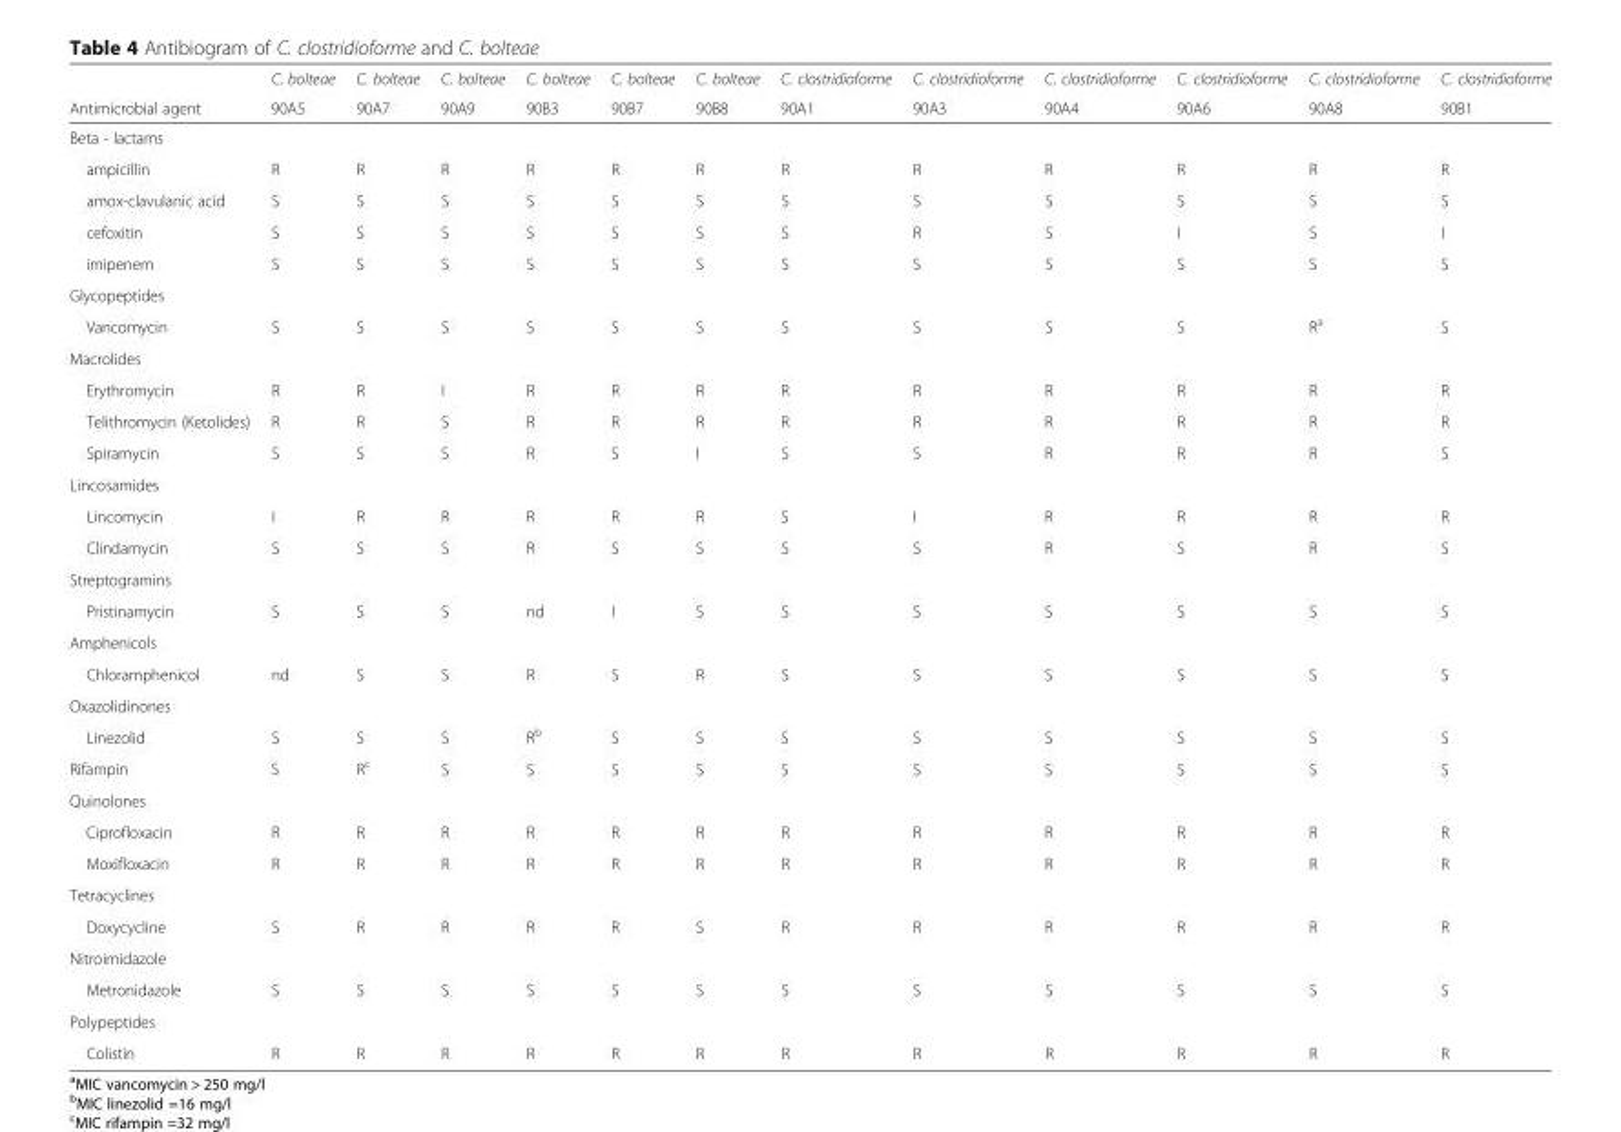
<table><thead><tr><td rowspan="2">Antimicrobial agent</td><td rowspan="2">C. bolteae 90A5</td><td rowspan="2">C. bolteae 90A7</td><td rowspan="2">C. bolteae 90A9</td><td rowspan="2">C. bolteae 90B3</td><td rowspan="2">C. bolteae 90B7</td><td rowspan="2">C. bolteae 90B8</td><td rowspan="2">C. clostridioforme 90A1</td><td rowspan="2">C. clostridioforme 90A3</td><td rowspan="2">C. clostridioforme 90A4</td><td rowspan="2">C. clostridioforme 90A6</td><td rowspan="2">C. clostridioforme 90A8</td><td rowspan="2">C. clostridioforme 90B1</td></tr><tr></tr></thead><tbody><tr><td colspan="13">Beta - lactams</td></tr><tr><td>ampicillin</td><td>R</td><td>R</td><td>R</td><td>R</td><td>R</td><td>R</td><td>R</td><td>R</td><td>R</td><td>R</td><td>R</td><td>R</td></tr><tr><td>amox-clavulanic acid</td><td>S</td><td>S</td><td>S</td><td>S</td><td>S</td><td>S</td><td>S</td><td>S</td><td>S</td><td>S</td><td>S</td><td>S</td></tr><tr><td>cefoxitin</td><td>S</td><td>S</td><td>S</td><td>S</td><td>S</td><td>S</td><td>S</td><td>R</td><td>S</td><td>I</td><td>S</td><td>I</td></tr><tr><td>imipenem</td><td>S</td><td>S</td><td>S</td><td>S</td><td>S</td><td>S</td><td>S</td><td>S</td><td>S</td><td>S</td><td>S</td><td>S</td></tr><tr><td colspan="13">Glycopeptides</td></tr><tr><td>Vancomycin</td><td>S</td><td>S</td><td>S</td><td>S</td><td>S</td><td>S</td><td>S</td><td>S</td><td>S</td><td>S</td><td>R<sup>a</sup></td><td>S</td></tr><tr><td colspan="13">Macrolides</td></tr><tr><td>Erythromycin</td><td>R</td><td>R</td><td>I</td><td>R</td><td>R</td><td>R</td><td>R</td><td>R</td><td>R</td><td>R</td><td>R</td><td>R</td></tr><tr><td>Telithromycin (Ketolides)</td><td>R</td><td>R</td><td>S</td><td>R</td><td>R</td><td>R</td><td>R</td><td>R</td><td>R</td><td>R</td><td>R</td><td>R</td></tr><tr><td>Spiramycin</td><td>S</td><td>S</td><td>S</td><td>R</td><td>S</td><td>I</td><td>S</td><td>S</td><td>R</td><td>R</td><td>R</td><td>S</td></tr><tr><td colspan="13">Lincosamides</td></tr><tr><td>Lincomycin</td><td>I</td><td>R</td><td>R</td><td>R</td><td>R</td><td>R</td><td>S</td><td>I</td><td>R</td><td>R</td><td>R</td><td>R</td></tr><tr><td>Clindamycin</td><td>S</td><td>S</td><td>S</td><td>R</td><td>S</td><td>S</td><td>S</td><td>S</td><td>R</td><td>S</td><td>R</td><td>S</td></tr><tr><td colspan="13">Streptogramins</td></tr><tr><td>Pristinamycin</td><td>S</td><td>S</td><td>S</td><td>nd</td><td>I</td><td>S</td><td>S</td><td>S</td><td>S</td><td>S</td><td>S</td><td>S</td></tr><tr><td colspan="13">Amphenicols</td></tr><tr><td>Chloramphenicol</td><td>nd</td><td>S</td><td>S</td><td>R</td><td>S</td><td>R</td><td>S</td><td>S</td><td>S</td><td>S</td><td>S</td><td>S</td></tr><tr><td colspan="13">Oxazolidinones</td></tr><tr><td>Linezolid</td><td>S</td><td>S</td><td>S</td><td>R<sup>b</sup></td><td>S</td><td>S</td><td>S</td><td>S</td><td>S</td><td>S</td><td>S</td><td>S</td></tr><tr><td>Rifampin</td><td>S</td><td>R<sup>c</sup></td><td>S</td><td>S</td><td>S</td><td>S</td><td>S</td><td>S</td><td>S</td><td>S</td><td>S</td><td>S</td></tr><tr><td colspan="13">Quinolones</td></tr><tr><td>Ciprofloxacin</td><td>R</td><td>R</td><td>R</td><td>R</td><td>R</td><td>R</td><td>R</td><td>R</td><td>R</td><td>R</td><td>R</td><td>R</td></tr><tr><td>Moxifloxacin</td><td>R</td><td>R</td><td>R</td><td>R</td><td>R</td><td>R</td><td>R</td><td>R</td><td>R</td><td>R</td><td>R</td><td>R</td></tr><tr><td colspan="13">Tetracyclines</td></tr><tr><td>Doxycycline</td><td>S</td><td>R</td><td>R</td><td>R</td><td>R</td><td>S</td><td>R</td><td>R</td><td>R</td><td>R</td><td>R</td><td>R</td></tr><tr><td colspan="13">Nitroimidazole</td></tr><tr><td>Metronidazole</td><td>S</td><td>S</td><td>S</td><td>S</td><td>S</td><td>S</td><td>S</td><td>S</td><td>S</td><td>S</td><td>S</td><td>S</td></tr><tr><td colspan="13">Polypeptides</td></tr><tr><td>Colistin</td><td>R</td><td>R</td><td>R</td><td>R</td><td>R</td><td>R</td><td>R</td><td>R</td><td>R</td><td>R</td><td>R</td><td>R</td></tr></tbody></table>